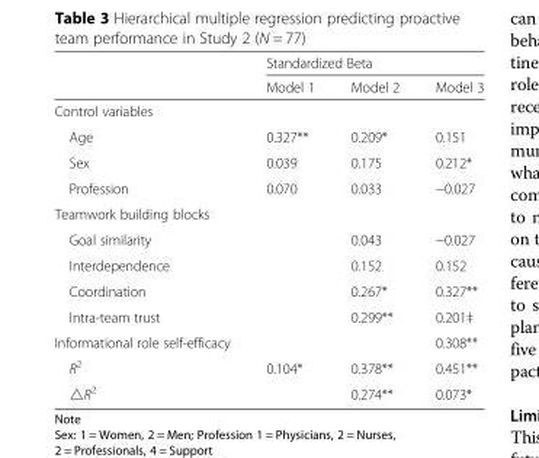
<table><thead><tr><td rowspan="2"></td><td colspan="3">Standardized Beta</td></tr><tr><td>Model 1</td><td>Model 2</td><td>Model 3</td></tr></thead><tbody><tr><td colspan="4">Control variables</td></tr><tr><td>Age</td><td>0.327**</td><td>0.209*</td><td>0.151</td></tr><tr><td>Sex</td><td>0.039</td><td>0.175</td><td>0.212*</td></tr><tr><td>Profession</td><td>0.070</td><td>0.033</td><td>−0.027</td></tr><tr><td colspan="4">Teamwork building blocks</td></tr><tr><td>Goal similarity</td><td></td><td>0.043</td><td>−0.027</td></tr><tr><td>Interdependence</td><td></td><td>0.152</td><td>0.152</td></tr><tr><td>Coordination</td><td></td><td>0.267*</td><td>0.327**</td></tr><tr><td>Intra-team trust</td><td></td><td>0.299**</td><td>0.201‡</td></tr><tr><td>Informational role self-efficacy</td><td></td><td></td><td>0.308**</td></tr><tr><td>R<sup>2</sup></td><td>0.104*</td><td>0.378**</td><td>0.451**</td></tr><tr><td>△R<sup>2</sup></td><td></td><td>0.274**</td><td>0.073*</td></tr></tbody></table>